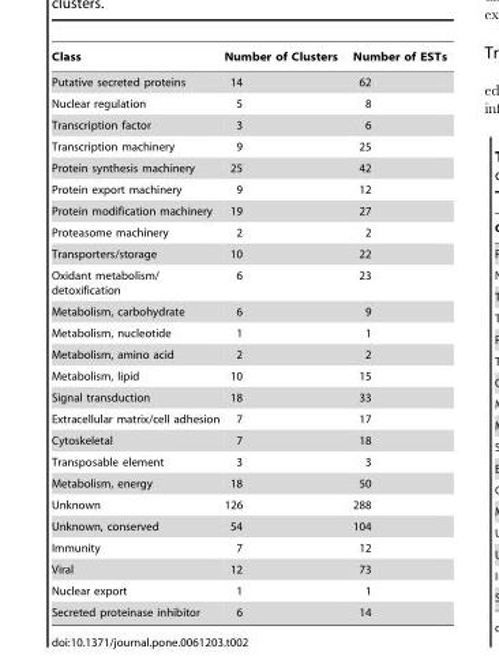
<table><thead><tr><td>Class</td><td>Number of Clusters</td><td>Number of ESTs</td></tr></thead><tbody><tr><td>Putative secreted proteins</td><td>14</td><td>62</td></tr><tr><td>Nuclear regulation</td><td>5</td><td>8</td></tr><tr><td>Transcription factor</td><td>3</td><td>6</td></tr><tr><td>Transcription machinery</td><td>9</td><td>25</td></tr><tr><td>Protein synthesis machinery</td><td>25</td><td>42</td></tr><tr><td>Protein export machinery</td><td>9</td><td>12</td></tr><tr><td>Protein modification machinery</td><td>19</td><td>27</td></tr><tr><td>Proteasome machinery</td><td>2</td><td>2</td></tr><tr><td>Transporters/storage</td><td>10</td><td>22</td></tr><tr><td>Oxidant metabolism/ detoxification</td><td>6</td><td>23</td></tr><tr><td>Metabolism, carbohydrate</td><td>6</td><td>9</td></tr><tr><td>Metabolism, nucleotide</td><td>1</td><td>1</td></tr><tr><td>Metabolism, amino acid</td><td>2</td><td>2</td></tr><tr><td>Metabolism, lipid</td><td>10</td><td>15</td></tr><tr><td>Signal transduction</td><td>18</td><td>33</td></tr><tr><td>Extracellular matrix/cell adhesion</td><td>7</td><td>17</td></tr><tr><td>Cytoskeletal</td><td>7</td><td>18</td></tr><tr><td>Transposable element</td><td>3</td><td>3</td></tr><tr><td>Metabolism, energy</td><td>18</td><td>50</td></tr><tr><td>Unknown</td><td>126</td><td>288</td></tr><tr><td>Unknown, conserved</td><td>54</td><td>104</td></tr><tr><td>Immunity</td><td>7</td><td>12</td></tr><tr><td>Viral</td><td>12</td><td>73</td></tr><tr><td>Nuclear export</td><td>1</td><td>1</td></tr><tr><td>Secreted proteinase inhibitor</td><td>6</td><td>14</td></tr></tbody></table>